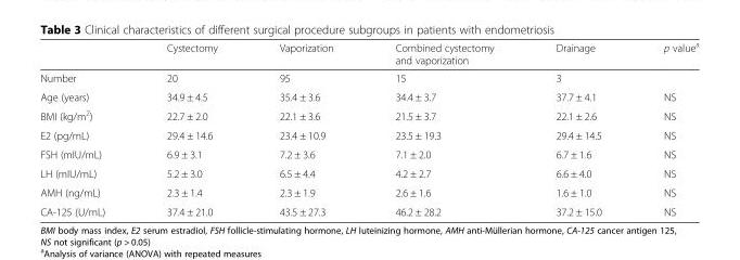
<table><thead><tr><td></td><td>Cystectomy</td><td>Vaporization</td><td>Combined cystectomy and vaporization</td><td>Drainage</td><td>p value<sup>a</sup></td></tr></thead><tbody><tr><td>Number</td><td>20</td><td>95</td><td>15</td><td>3</td><td></td></tr><tr><td>Age (years)</td><td>34.9 ± 4.5</td><td>35.4 ± 3.6</td><td>34.4 ± 3.7</td><td>37.7 ± 4.1</td><td>NS</td></tr><tr><td>BMI (kg/m<sup>2</sup>)</td><td>22.7 ± 2.0</td><td>22.1 ± 3.6</td><td>21.5 ± 3.7</td><td>22.1 ± 2.6</td><td>NS</td></tr><tr><td>E2 (pg/mL)</td><td>29.4 ± 14.6</td><td>23.4 ± 10.9</td><td>23.5 ± 19.3</td><td>29.4 ± 14.5</td><td>NS</td></tr><tr><td>FSH (mIU/mL)</td><td>6.9 ± 3.1</td><td>7.2 ± 3.6</td><td>7.1 ± 2.0</td><td>6.7 ± 1.6</td><td>NS</td></tr><tr><td>LH (mIU/mL)</td><td>5.2 ± 3.0</td><td>6.5 ± 4.4</td><td>4.2 ± 2.7</td><td>6.6 ± 4.0</td><td>NS</td></tr><tr><td>AMH (ng/mL)</td><td>2.3 ± 1.4</td><td>2.3 ± 1.9</td><td>2.6 ± 1.6</td><td>1.6 ± 1.0</td><td>NS</td></tr><tr><td>CA-125 (U/mL)</td><td>37.4 ± 21.0</td><td>43.5 ± 27.3</td><td>46.2 ± 28.2</td><td>37.2 ± 15.0</td><td>NS</td></tr></tbody></table>